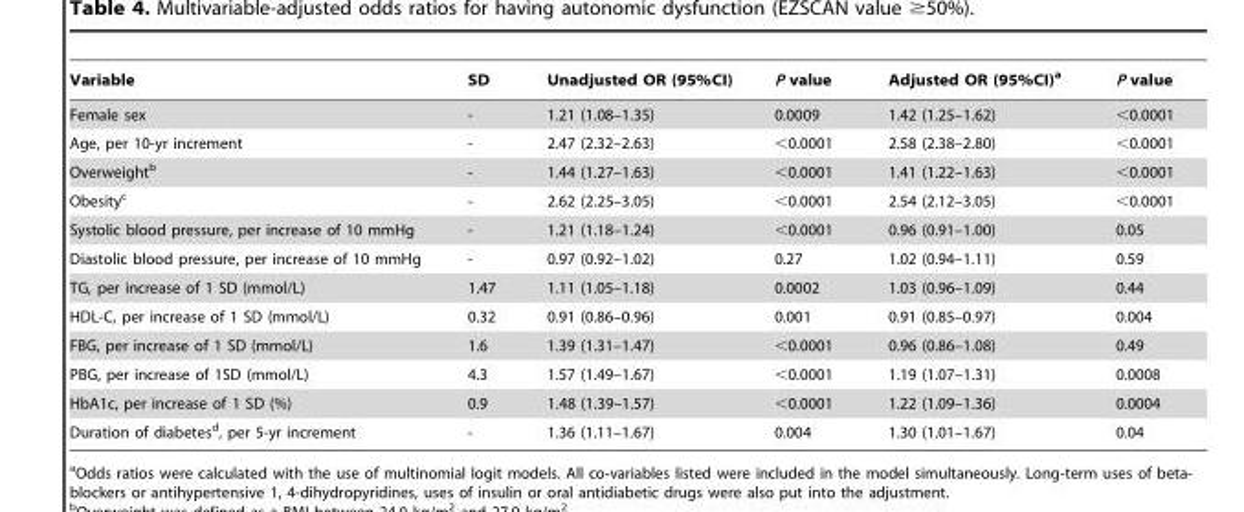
<table><thead><tr><td>Variable</td><td>SD</td><td>Unadjusted OR (95%CI)</td><td>P value</td><td>Adjusted OR (95%CI)<sup>a</sup></td><td>P value</td></tr></thead><tbody><tr><td>Female sex</td><td>-</td><td>1.21 (1.08–1.35)</td><td>0.0009</td><td>1.42 (1.25–1.62)</td><td>&lt;0.0001</td></tr><tr><td>Age, per 10-yr increment</td><td>-</td><td>2.47 (2.32–2.63)</td><td>&lt;0.0001</td><td>2.58 (2.38–2.80)</td><td>&lt;0.0001</td></tr><tr><td>Overweight<sup>b</sup></td><td>-</td><td>1.44 (1.27–1.63)</td><td>&lt;0.0001</td><td>1.41 (1.22–1.63)</td><td>&lt;0.0001</td></tr><tr><td>Obesity<sup>c</sup></td><td>-</td><td>2.62 (2.25–3.05)</td><td>&lt;0.0001</td><td>2.54 (2.12–3.05)</td><td>&lt;0.0001</td></tr><tr><td>Systolic blood pressure, per increase of 10 mmHg</td><td>-</td><td>1.21 (1.18–1.24)</td><td>&lt;0.0001</td><td>0.96 (0.91–1.00)</td><td>0.05</td></tr><tr><td>Diastolic blood pressure, per increase of 10 mmHg</td><td>-</td><td>0.97 (0.92–1.02)</td><td>0.27</td><td>1.02 (0.94–1.11)</td><td>0.59</td></tr><tr><td>TG, per increase of 1 SD (mmol/L)</td><td>1.47</td><td>1.11 (1.05–1.18)</td><td>0.0002</td><td>1.03 (0.96–1.09)</td><td>0.44</td></tr><tr><td>HDL-C, per increase of 1 SD (mmol/L)</td><td>0.32</td><td>0.91 (0.86–0.96)</td><td>0.001</td><td>0.91 (0.85–0.97)</td><td>0.004</td></tr><tr><td>FBG, per increase of 1 SD (mmol/L)</td><td>1.6</td><td>1.39 (1.31–1.47)</td><td>&lt;0.0001</td><td>0.96 (0.86–1.08)</td><td>0.49</td></tr><tr><td>PBG, per increase of 1SD (mmol/L)</td><td>4.3</td><td>1.57 (1.49–1.67)</td><td>&lt;0.0001</td><td>1.19 (1.07–1.31)</td><td>0.0008</td></tr><tr><td>HbA1c, per increase of 1 SD (%)</td><td>0.9</td><td>1.48 (1.39–1.57)</td><td>&lt;0.0001</td><td>1.22 (1.09–1.36)</td><td>0.0004</td></tr><tr><td>Duration of diabetes<sup>d</sup>, per 5-yr increment</td><td>-</td><td>1.36 (1.11–1.67)</td><td>0.004</td><td>1.30 (1.01–1.67)</td><td>0.04</td></tr></tbody></table>